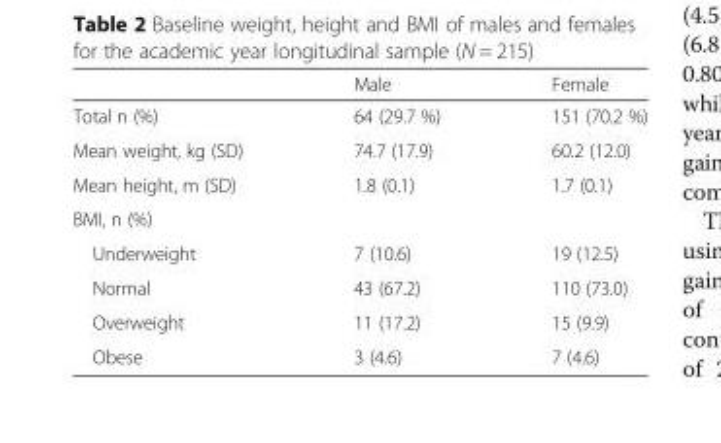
<table><thead><tr><td></td><td>Male</td><td>Female</td></tr></thead><tbody><tr><td>Total n (%)</td><td>64 (29.7 %)</td><td>151 (70.2 %)</td></tr><tr><td>Mean weight, kg (SD)</td><td>74.7 (17.9)</td><td>60.2 (12.0)</td></tr><tr><td>Mean height, m (SD)</td><td>1.8 (0.1)</td><td>1.7 (0.1)</td></tr><tr><td colspan="3">BMI, n (%)</td></tr><tr><td>Underweight</td><td>7 (10.6)</td><td>19 (12.5)</td></tr><tr><td>Normal</td><td>43 (67.2)</td><td>110 (73.0)</td></tr><tr><td>Overweight</td><td>11 (17.2)</td><td>15 (9.9)</td></tr><tr><td>Obese</td><td>3 (4.6)</td><td>7 (4.6)</td></tr></tbody></table>